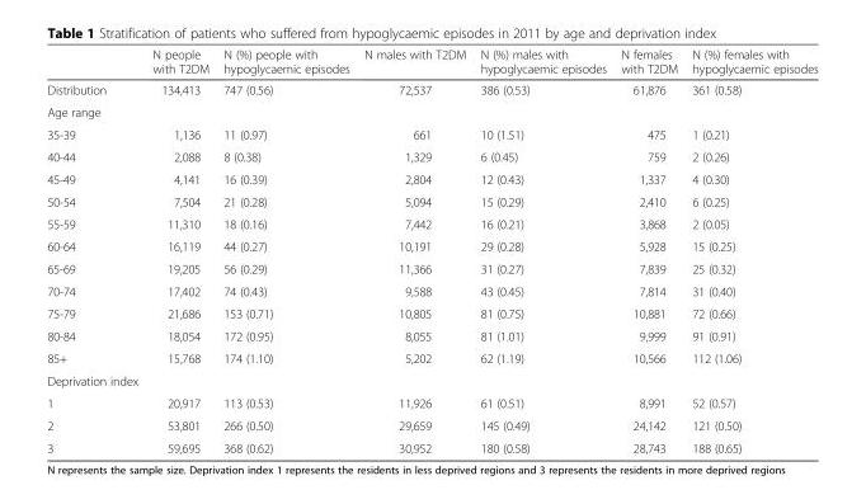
<table><thead><tr><td></td><td>N people with T2DM</td><td>N (%) people with hypoglycaemic episodes</td><td>N males with T2DM</td><td>N (%) males with hypoglycaemic episodes</td><td>N females with T2DM</td><td>N (%) females with hypoglycaemic episodes</td></tr></thead><tbody><tr><td>Distribution</td><td>134,413</td><td>747 (0.56)</td><td>72,537</td><td>386 (0.53)</td><td>61,876</td><td>361 (0.58)</td></tr><tr><td colspan="7">Age range</td></tr><tr><td>35-39</td><td>1,136</td><td>11 (0.97)</td><td>661</td><td>10 (1.51)</td><td>475</td><td>1 (0.21)</td></tr><tr><td>40-44</td><td>2,088</td><td>8 (0.38)</td><td>1,329</td><td>6 (0.45)</td><td>759</td><td>2 (0.26)</td></tr><tr><td>45-49</td><td>4,141</td><td>16 (0.39)</td><td>2,804</td><td>12 (0.43)</td><td>1,337</td><td>4 (0.30)</td></tr><tr><td>50-54</td><td>7,504</td><td>21 (0.28)</td><td>5,094</td><td>15 (0.29)</td><td>2,410</td><td>6 (0.25)</td></tr><tr><td>55-59</td><td>11,310</td><td>18 (0.16)</td><td>7,442</td><td>16 (0.21)</td><td>3,868</td><td>2 (0.05)</td></tr><tr><td>60-64</td><td>16,119</td><td>44 (0.27)</td><td>10,191</td><td>29 (0.28)</td><td>5,928</td><td>15 (0.25)</td></tr><tr><td>65-69</td><td>19,205</td><td>56 (0.29)</td><td>11,366</td><td>31 (0.27)</td><td>7,839</td><td>25 (0.32)</td></tr><tr><td>70-74</td><td>17,402</td><td>74 (0.43)</td><td>9,588</td><td>43 (0.45)</td><td>7,814</td><td>31 (0.40)</td></tr><tr><td>75-79</td><td>21,686</td><td>153 (0.71)</td><td>10,805</td><td>81 (0.75)</td><td>10,881</td><td>72 (0.66)</td></tr><tr><td>80-84</td><td>18,054</td><td>172 (0.95)</td><td>8,055</td><td>81 (1.01)</td><td>9,999</td><td>91 (0.91)</td></tr><tr><td>85+</td><td>15,768</td><td>174 (1.10)</td><td>5,202</td><td>62 (1.19)</td><td>10,566</td><td>112 (1.06)</td></tr><tr><td colspan="7">Deprivation index</td></tr><tr><td>1</td><td>20,917</td><td>113 (0.53)</td><td>11,926</td><td>61 (0.51)</td><td>8,991</td><td>52 (0.57)</td></tr><tr><td>2</td><td>53,801</td><td>266 (0.50)</td><td>29,659</td><td>145 (0.49)</td><td>24,142</td><td>121 (0.50)</td></tr><tr><td>3</td><td>59,695</td><td>368 (0.62)</td><td>30,952</td><td>180 (0.58)</td><td>28,743</td><td>188 (0.65)</td></tr></tbody></table>